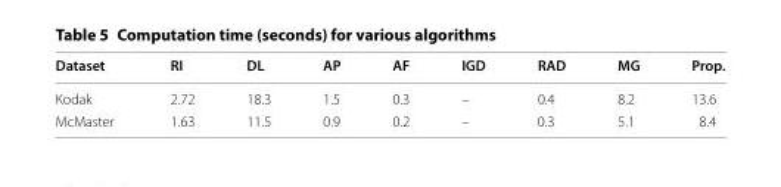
<table><thead><tr><td>Dataset</td><td>RI</td><td>DL</td><td>AP</td><td>AF</td><td>IGD</td><td>RAD</td><td>MG</td><td>Prop.</td></tr></thead><tbody><tr><td>Kodak</td><td>2.72</td><td>18.3</td><td>1.5</td><td>0.3</td><td>–</td><td>0.4</td><td>8.2</td><td>13.6</td></tr><tr><td>McMaster</td><td>1.63</td><td>11.5</td><td>0.9</td><td>0.2</td><td>–</td><td>0.3</td><td>5.1</td><td>8.4</td></tr></tbody></table>